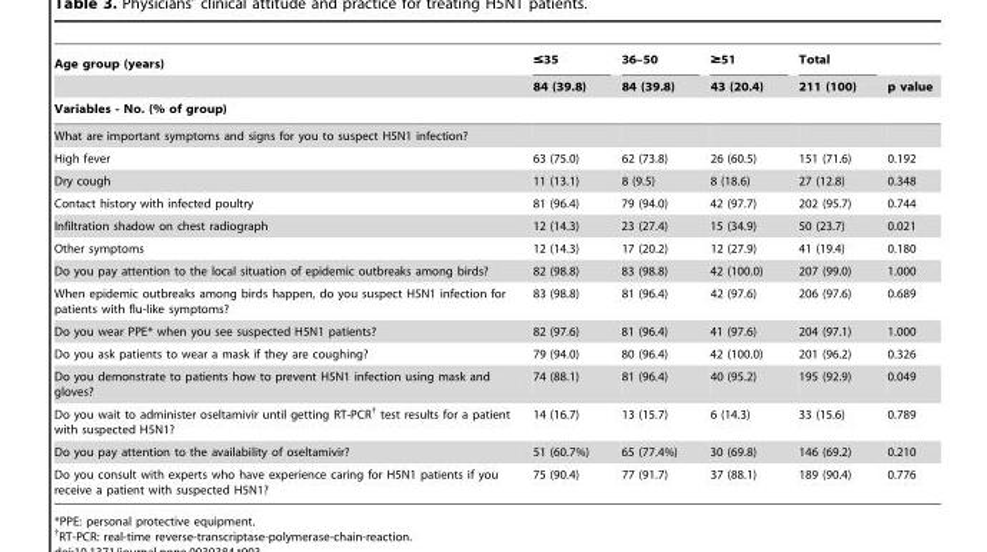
<table><thead><tr><td rowspan="3">Age group (years) Variables - No. (% of group)</td><td rowspan="3">≤35 84 (39.8)</td><td rowspan="3">36–50 84 (39.8)</td><td rowspan="3">≥51 43 (20.4)</td><td rowspan="3">Total 211 (100)</td><td rowspan="3">p value</td></tr><tr></tr><tr></tr></thead><tbody><tr><td colspan="6">What are important symptoms and signs for you to suspect H5N1 infection?</td></tr><tr><td>High fever</td><td>63 (75.0)</td><td>62 (73.8)</td><td>26 (60.5)</td><td>151 (71.6)</td><td>0.192</td></tr><tr><td>Dry cough</td><td>11 (13.1)</td><td>8 (9.5)</td><td>8 (18.6)</td><td>27 (12.8)</td><td>0.348</td></tr><tr><td>Contact history with infected poultry</td><td>81 (96.4)</td><td>79 (94.0)</td><td>42 (97.7)</td><td>202 (95.7)</td><td>0.744</td></tr><tr><td>Infiltration shadow on chest radiograph</td><td>12 (14.3)</td><td>23 (27.4)</td><td>15 (34.9)</td><td>50 (23.7)</td><td>0.021</td></tr><tr><td>Other symptoms</td><td>12 (14.3)</td><td>17 (20.2)</td><td>12 (27.9)</td><td>41 (19.4)</td><td>0.180</td></tr><tr><td>Do you pay attention to the local situation of epidemic outbreaks among birds?</td><td>82 (98.8)</td><td>83 (98.8)</td><td>42 (100.0)</td><td>207 (99.0)</td><td>1.000</td></tr><tr><td>When epidemic outbreaks among birds happen, do you suspect H5N1 infection for patients with flu-like symptoms?</td><td>83 (98.8)</td><td>81 (96.4)</td><td>42 (97.6)</td><td>206 (97.6)</td><td>0.689</td></tr><tr><td>Do you wear PPE* when you see suspected H5N1 patients?</td><td>82 (97.6)</td><td>81 (96.4)</td><td>41 (97.6)</td><td>204 (97.1)</td><td>1.000</td></tr><tr><td>Do you ask patients to wear a mask if they are coughing?</td><td>79 (94.0)</td><td>80 (96.4)</td><td>42 (100.0)</td><td>201 (96.2)</td><td>0.326</td></tr><tr><td>Do you demonstrate to patients how to prevent H5N1 infection using mask and gloves?</td><td>74 (88.1)</td><td>81 (96.4)</td><td>40 (95.2)</td><td>195 (92.9)</td><td>0.049</td></tr><tr><td>Do you wait to administer oseltamivir until getting RT-PCR† test results for a patient with suspected H5N1?</td><td>14 (16.7)</td><td>13 (15.7)</td><td>6 (14.3)</td><td>33 (15.6)</td><td>0.789</td></tr><tr><td>Do you pay attention to the availability of oseltamivir?</td><td>51 (60.7%)</td><td>65 (77.4%)</td><td>30 (69.8)</td><td>146 (69.2)</td><td>0.210</td></tr><tr><td>Do you consult with experts who have experience caring for H5N1 patients if you receive a patient with suspected H5N1?</td><td>75 (90.4)</td><td>77 (91.7)</td><td>37 (88.1)</td><td>189 (90.4)</td><td>0.776</td></tr></tbody></table>